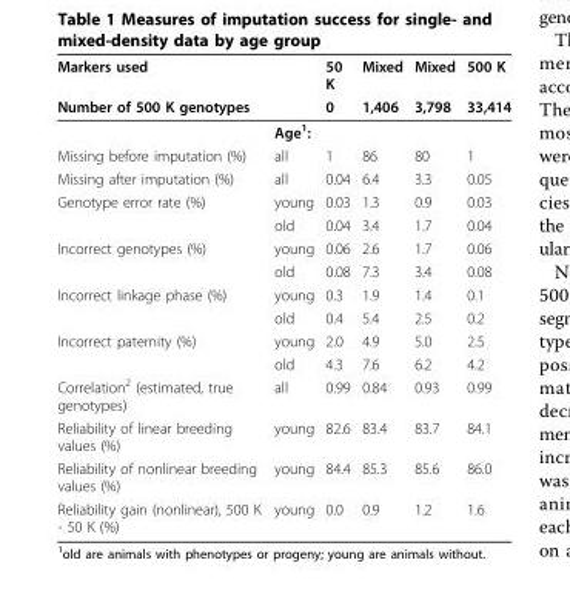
<table><thead><tr><td rowspan="2">Markers used Number of 500 K genotypes</td><td rowspan="2"></td><td rowspan="2">50 K 0</td><td rowspan="2">Mixed 1,406</td><td rowspan="2">Mixed 3,798</td><td rowspan="2">500 K 33,414</td></tr><tr></tr></thead><tbody><tr><td></td><td>Age<sup>1</sup>:</td><td></td><td></td><td></td><td></td></tr><tr><td>Missing before imputation (%)</td><td>all</td><td>1</td><td>86</td><td>80</td><td>1</td></tr><tr><td>Missing after imputation (%)</td><td>all</td><td>0.04</td><td>6.4</td><td>3.3</td><td>0.05</td></tr><tr><td rowspan="2">Genotype error rate (%)</td><td>young</td><td>0.03</td><td>1.3</td><td>0.9</td><td>0.03</td></tr><tr><td>old</td><td>0.04</td><td>3.4</td><td>1.7</td><td>0.04</td></tr><tr><td rowspan="2">Incorrect genotypes (%)</td><td>young</td><td>0.06</td><td>2.6</td><td>1.7</td><td>0.06</td></tr><tr><td>old</td><td>0.08</td><td>7.3</td><td>3.4</td><td>0.08</td></tr><tr><td rowspan="2">Incorrect linkage phase (%)</td><td>young</td><td>0.3</td><td>1.9</td><td>1.4</td><td>0.1</td></tr><tr><td>old</td><td>0.4</td><td>5.4</td><td>2.5</td><td>0.2</td></tr><tr><td rowspan="2">Incorrect paternity (%)</td><td>young</td><td>2.0</td><td>4.9</td><td>5.0</td><td>2.5</td></tr><tr><td>old</td><td>4.3</td><td>7.6</td><td>6.2</td><td>4.2</td></tr><tr><td>Correlation<sup>2</sup> (estimated, true genotypes)</td><td>all</td><td>0.99</td><td>0.84</td><td>0.93</td><td>0.99</td></tr><tr><td>Reliability of linear breeding values (%)</td><td>young</td><td>82.6</td><td>83.4</td><td>83.7</td><td>84.1</td></tr><tr><td>Reliability of nonlinear breeding values (%)</td><td>young</td><td>84.4</td><td>85.3</td><td>85.6</td><td>86.0</td></tr><tr><td>Reliability gain (nonlinear), 500 K - 50 K (%)</td><td>young</td><td>0.0</td><td>0.9</td><td>1.2</td><td>1.6</td></tr></tbody></table>